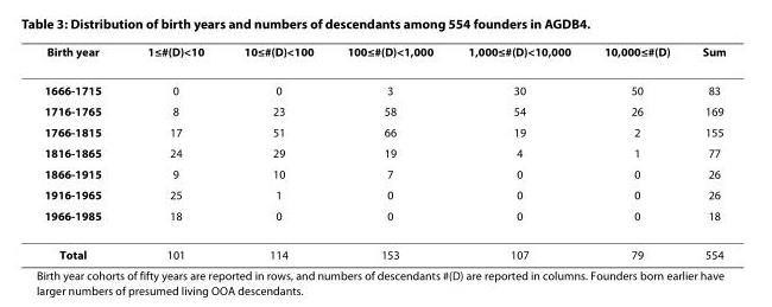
<table><thead><tr><td>Birth year</td><td>1≤#(D)&lt;10</td><td>10≤#(D)&lt;100</td><td>100≤#(D)&lt;1,000</td><td>1,000≤#(D)&lt;10,000</td><td>10,000≤#(D)</td><td>Sum</td></tr></thead><tbody><tr><td>1666-1715</td><td>0</td><td>0</td><td>3</td><td>30</td><td>50</td><td>83</td></tr><tr><td>1716-1765</td><td>8</td><td>23</td><td>58</td><td>54</td><td>26</td><td>169</td></tr><tr><td>1766-1815</td><td>17</td><td>51</td><td>66</td><td>19</td><td>2</td><td>155</td></tr><tr><td>1816-1865</td><td>24</td><td>29</td><td>19</td><td>4</td><td>1</td><td>77</td></tr><tr><td>1866-1915</td><td>9</td><td>10</td><td>7</td><td>0</td><td>0</td><td>26</td></tr><tr><td>1916-1965</td><td>25</td><td>1</td><td>0</td><td>0</td><td>0</td><td>26</td></tr><tr><td>1966-1985</td><td>18</td><td>0</td><td>0</td><td>0</td><td>0</td><td>18</td></tr><tr><td>Total</td><td>101</td><td>114</td><td>153</td><td>107</td><td>79</td><td>554</td></tr></tbody></table>